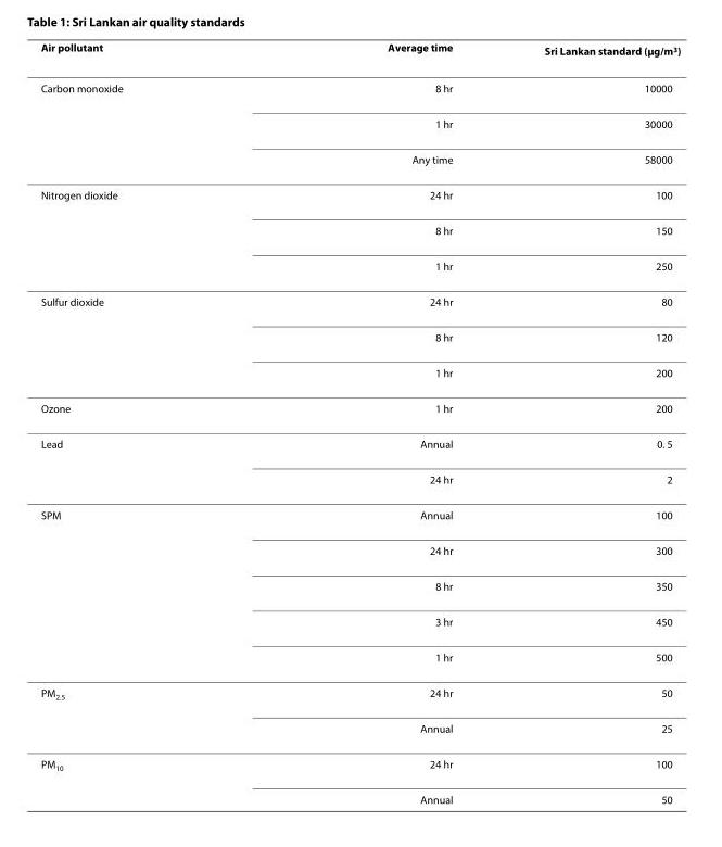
<table><thead><tr><td>Air pollutant</td><td>Average time</td><td>Sri Lankan standard (μg/m<sup>3</sup>)</td></tr></thead><tbody><tr><td rowspan="3">Carbon monoxide</td><td>8 hr</td><td>10000</td></tr><tr><td>1 hr</td><td>30000</td></tr><tr><td>Any time</td><td>58000</td></tr><tr><td rowspan="3">Nitrogen dioxide</td><td>24 hr</td><td>100</td></tr><tr><td>8 hr</td><td>150</td></tr><tr><td>1 hr</td><td>250</td></tr><tr><td rowspan="3">Sulfur dioxide</td><td>24 hr</td><td>80</td></tr><tr><td>8 hr</td><td>120</td></tr><tr><td>1 hr</td><td>200</td></tr><tr><td>Ozone</td><td>1 hr</td><td>200</td></tr><tr><td rowspan="2">Lead</td><td>Annual</td><td>0. 5</td></tr><tr><td>24 hr</td><td>2</td></tr><tr><td rowspan="5">SPM</td><td>Annual</td><td>100</td></tr><tr><td>24 hr</td><td>300</td></tr><tr><td>8 hr</td><td>350</td></tr><tr><td>3 hr</td><td>450</td></tr><tr><td>1 hr</td><td>500</td></tr><tr><td rowspan="2">PM<sub>2.5</sub></td><td>24 hr</td><td>50</td></tr><tr><td>Annual</td><td>25</td></tr><tr><td rowspan="2">PM<sub>10</sub></td><td>24 hr</td><td>100</td></tr><tr><td>Annual</td><td>50</td></tr></tbody></table>